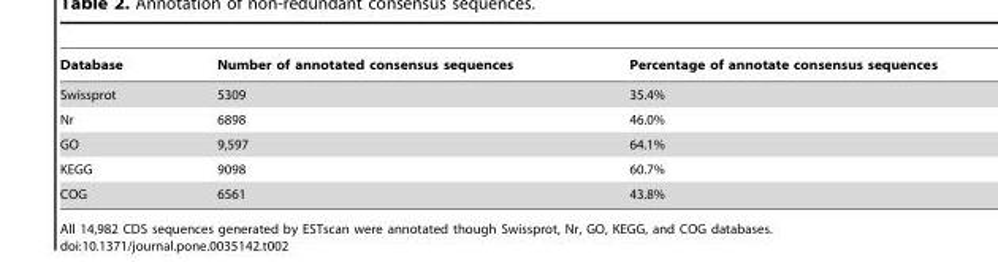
<table><thead><tr><td>Database</td><td>Number of annotated consensus sequences</td><td>Percentage of annotate consensus sequences</td></tr></thead><tbody><tr><td>Swissprot</td><td>5309</td><td>35.4%</td></tr><tr><td>Nr</td><td>6898</td><td>46.0%</td></tr><tr><td>GO</td><td>9,597</td><td>64.1%</td></tr><tr><td>KEGG</td><td>9098</td><td>60.7%</td></tr><tr><td>COG</td><td>6561</td><td>43.8%</td></tr></tbody></table>